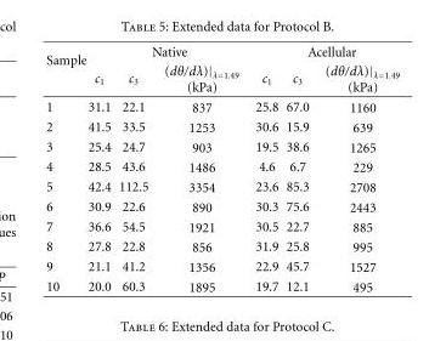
<table><thead><tr><td rowspan="2">Sample</td><td colspan="3">Native</td><td colspan="3">Acellular</td></tr><tr><td>c<sub>1</sub></td><td>c<sub>3</sub></td><td>(dθ/dλ)|<sub>λ=1.49</sub> (kPa)</td><td>c<sub>1</sub></td><td>c<sub>3</sub></td><td>(dθ/dλ)|<sub>λ=1.49</sub> (kPa)</td></tr></thead><tbody><tr><td>1</td><td>31.1</td><td>22.1</td><td>837</td><td>25.8</td><td>67.0</td><td>1160</td></tr><tr><td>2</td><td>41.5</td><td>33.5</td><td>1253</td><td>30.6</td><td>15.9</td><td>639</td></tr><tr><td>3</td><td>25.4</td><td>24.7</td><td>903</td><td>19.5</td><td>38.6</td><td>1265</td></tr><tr><td>4</td><td>28.5</td><td>43.6</td><td>1486</td><td>4.6</td><td>6.7</td><td>229</td></tr><tr><td>5</td><td>42.4</td><td>112.5</td><td>3354</td><td>23.6</td><td>85.3</td><td>2708</td></tr><tr><td>6</td><td>30.9</td><td>22.6</td><td>890</td><td>30.3</td><td>75.6</td><td>2443</td></tr><tr><td>7</td><td>36.6</td><td>54.5</td><td>1921</td><td>30.5</td><td>22.7</td><td>885</td></tr><tr><td>8</td><td>27.8</td><td>22.8</td><td>856</td><td>31.9</td><td>25.8</td><td>995</td></tr><tr><td>9</td><td>21.1</td><td>41.2</td><td>1356</td><td>22.9</td><td>45.7</td><td>1527</td></tr><tr><td>10</td><td>20.0</td><td>60.3</td><td>1895</td><td>19.7</td><td>12.1</td><td>495</td></tr></tbody></table>